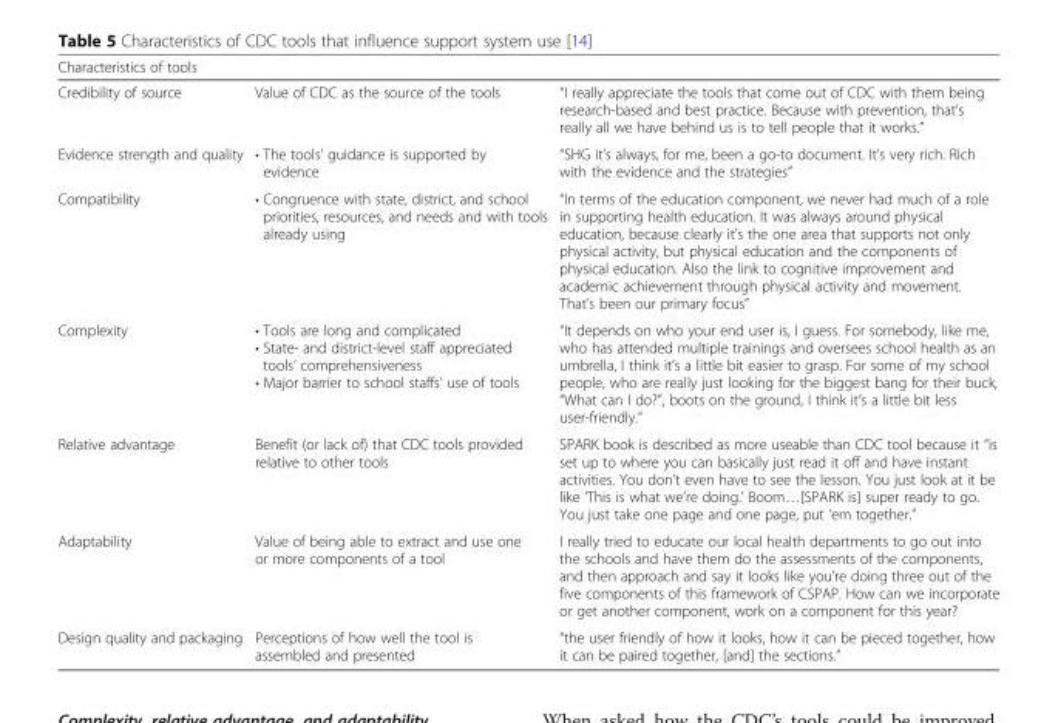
<table><thead><tr><td colspan="3">Characteristics of tools</td></tr><tr><td>Credibility of source</td><td>Value of CDC as the source of the tools</td><td>“I really appreciate the tools that come out of CDC with them being research-based and best practice. Because with prevention, that’s really all we have behind us is to tell people that it works.”</td></tr></thead><tbody><tr><td>Evidence strength and quality</td><td>• The tools’ guidance is supported by evidence</td><td>“SHG it’s always, for me, been a go-to document. It’s very rich. Rich with the evidence and the strategies”</td></tr><tr><td>Compatibility</td><td>• Congruence with state, district, and school priorities, resources, and needs and with tools already using</td><td>“In terms of the education component, we never had much of a role in supporting health education. It was always around physical education, because clearly it’s the one area that supports not only physical activity, but physical education and the components of physical education. Also the link to cognitive improvement and academic achievement through physical activity and movement. That’s been our primary focus”</td></tr><tr><td>Complexity</td><td>• Tools are long and complicated • State- and district-level staff appreciated tools’ comprehensiveness • Major barrier to school staffs’ use of tools</td><td>“It depends on who your end user is, I guess. For somebody, like me, who has attended multiple trainings and oversees school health as an umbrella, I think it’s a little bit easier to grasp. For some of my school people, who are really just looking for the biggest bang for their buck, “What can I do?”, boots on the ground, I think it’s a little bit less user-friendly.”</td></tr><tr><td>Relative advantage</td><td>Benefit (or lack of) that CDC tools provided relative to other tools</td><td>SPARK book is described as more useable than CDC tool because it “is set up to where you can basically just read it off and have instant activities. You don’t even have to see the lesson. You just look at it be like ‘This is what we’re doing.’ Boom…[SPARK is] super ready to go. You just take one page and one page, put ‘em together.”</td></tr><tr><td>Adaptability</td><td>Value of being able to extract and use one or more components of a tool</td><td>I really tried to educate our local health departments to go out into the schools and have them do the assessments of the components, and then approach and say it looks like you’re doing three out of the five components of this framework of CSPAP. How can we incorporate or get another component, work on a component for this year?</td></tr><tr><td>Design quality and packaging</td><td>Perceptions of how well the tool is assembled and presented</td><td>“the user friendly of how it looks, how it can be pieced together, how it can be paired together, [and] the sections.”</td></tr></tbody></table>